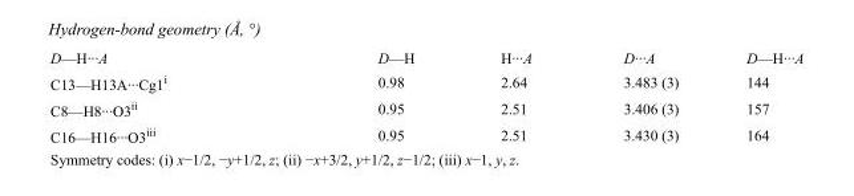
<table><tbody><tr><td>D—H···A</td><td>D—H</td><td>H···A</td><td>D···A</td><td>D—H···A</td></tr><tr><td>C13—H13A···Cg1<sup>i</sup></td><td>0.98</td><td>2.64</td><td>3.483 (3)</td><td>144</td></tr><tr><td>C8—H8···O3<sup>ii</sup></td><td>0.95</td><td>2.51</td><td>3.406 (3)</td><td>157</td></tr><tr><td>C16—H16···O3<sup>iii</sup></td><td>0.95</td><td>2.51</td><td>3.430 (3)</td><td>164</td></tr></tbody></table>